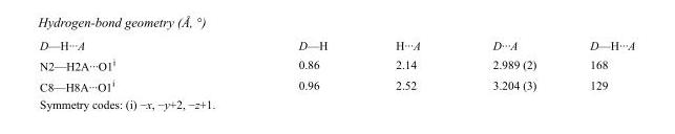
<table><tbody><tr><td>D—H···A</td><td>D—H</td><td>H···A</td><td>D···A</td><td>D—H···A</td></tr><tr><td>N2—H2A···O1<sup>i</sup></td><td>0.86</td><td>2.14</td><td>2.989 (2)</td><td>168</td></tr><tr><td>C8—H8A···O1<sup>i</sup></td><td>0.96</td><td>2.52</td><td>3.204 (3)</td><td>129</td></tr></tbody></table>